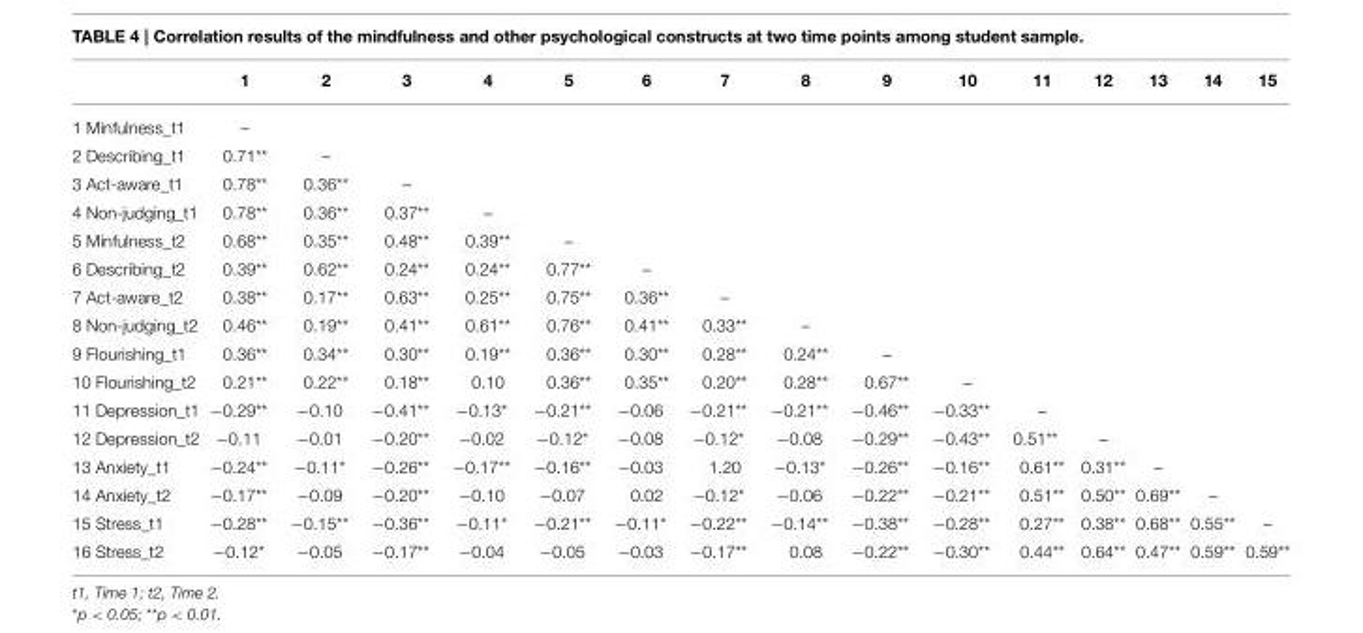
<table><thead><tr><td></td><td>1</td><td>2</td><td>3</td><td>4</td><td>5</td><td>6</td><td>7</td><td>8</td><td>9</td><td>10</td><td>11</td><td>12</td><td>13</td><td>14</td><td>15</td></tr></thead><tbody><tr><td>1 Minfulness_t1</td><td>–</td><td></td><td></td><td></td><td></td><td></td><td></td><td></td><td></td><td></td><td></td><td></td><td></td><td></td><td></td></tr><tr><td>2 Describing_t1</td><td>0.71**</td><td>–</td><td></td><td></td><td></td><td></td><td></td><td></td><td></td><td></td><td></td><td></td><td></td><td></td><td></td></tr><tr><td>3 Act-aware_t1</td><td>0.78**</td><td>0.36**</td><td>–</td><td></td><td></td><td></td><td></td><td></td><td></td><td></td><td></td><td></td><td></td><td></td><td></td></tr><tr><td>4 Non-judging_t1</td><td>0.78**</td><td>0.36**</td><td>0.37**</td><td>–</td><td></td><td></td><td></td><td></td><td></td><td></td><td></td><td></td><td></td><td></td><td></td></tr><tr><td>5 Minfulness_t2</td><td>0.68**</td><td>0.35**</td><td>0.48**</td><td>0.39**</td><td>–</td><td></td><td></td><td></td><td></td><td></td><td></td><td></td><td></td><td></td><td></td></tr><tr><td>6 Describing_t2</td><td>0.39**</td><td>0.62**</td><td>0.24**</td><td>0.24**</td><td>0.77**</td><td>–</td><td></td><td></td><td></td><td></td><td></td><td></td><td></td><td></td><td></td></tr><tr><td>7 Act-aware_t2</td><td>0.38**</td><td>0.17**</td><td>0.63**</td><td>0.25**</td><td>0.75**</td><td>0.36**</td><td>–</td><td></td><td></td><td></td><td></td><td></td><td></td><td></td><td></td></tr><tr><td>8 Non-judging_t2</td><td>0.46**</td><td>0.19**</td><td>0.41**</td><td>0.61**</td><td>0.76**</td><td>0.41**</td><td>0.33**</td><td>–</td><td></td><td></td><td></td><td></td><td></td><td></td><td></td></tr><tr><td>9 Flourishing_t1</td><td>0.36**</td><td>0.34**</td><td>0.30**</td><td>0.19**</td><td>0.36**</td><td>0.30**</td><td>0.28**</td><td>0.24**</td><td>–</td><td></td><td></td><td></td><td></td><td></td><td></td></tr><tr><td>10 Flourishing_t2</td><td>0.21**</td><td>0.22**</td><td>0.18**</td><td>0.10</td><td>0.36**</td><td>0.35**</td><td>0.20**</td><td>0.28**</td><td>0.67**</td><td>–</td><td></td><td></td><td></td><td></td><td></td></tr><tr><td>11 Depression_t1</td><td>−0.29**</td><td>−0.10</td><td>−0.41**</td><td>−0.13*</td><td>−0.21**</td><td>−0.06</td><td>−0.21**</td><td>−0.21**</td><td>−0.46**</td><td>−0.33**</td><td>–</td><td></td><td></td><td></td><td></td></tr><tr><td>12 Depression_t2</td><td>−0.11</td><td>−0.01</td><td>−0.20**</td><td>−0.02</td><td>−0.12*</td><td>−0.08</td><td>−0.12*</td><td>−0.08</td><td>−0.29**</td><td>−0.43**</td><td>0.51**</td><td>–</td><td></td><td></td><td></td></tr><tr><td>13 Anxiety_t1</td><td>−0.24**</td><td>−0.11*</td><td>−0.26**</td><td>−0.17**</td><td>−0.16**</td><td>−0.03</td><td>1.20</td><td>−0.13*</td><td>−0.26**</td><td>−0.16**</td><td>0.61**</td><td>0.31**</td><td>–</td><td></td><td></td></tr><tr><td>14 Anxiety_t2</td><td>−0.17**</td><td>−0.09</td><td>−0.20**</td><td>−0.10</td><td>−0.07</td><td>0.02</td><td>−0.12*</td><td>−0.06</td><td>−0.22**</td><td>−0.21**</td><td>0.51**</td><td>0.50**</td><td>0.69**</td><td>–</td><td></td></tr><tr><td>15 Stress_t1</td><td>−0.28**</td><td>−0.15**</td><td>−0.36**</td><td>−0.11*</td><td>−0.21**</td><td>−0.11*</td><td>−0.22**</td><td>−0.14**</td><td>−0.38**</td><td>−0.28**</td><td>0.27**</td><td>0.38**</td><td>0.68**</td><td>0.55**</td><td>–</td></tr><tr><td>16 Stress_t2</td><td>−0.12*</td><td>−0.05</td><td>−0.17**</td><td>−0.04</td><td>−0.05</td><td>−0.03</td><td>−0.17**</td><td>0.08</td><td>−0.22**</td><td>−0.30**</td><td>0.44**</td><td>0.64**</td><td>0.47**</td><td>0.59**</td><td>0.59**</td></tr></tbody></table>